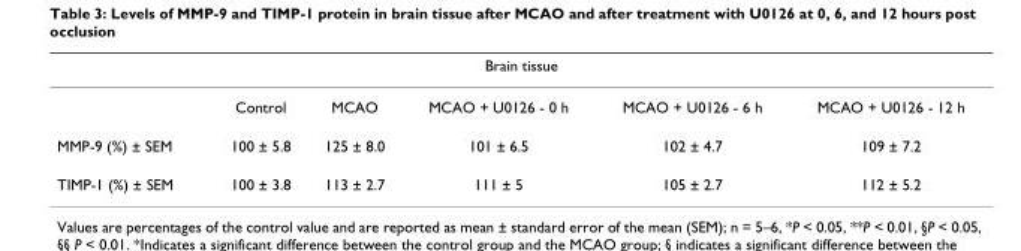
<table><thead><tr><td colspan="6">Brain tissue</td></tr><tr><td></td><td>Control</td><td>MCAO</td><td>MCAO + U0126 - 0 h</td><td>MCAO + U0126 - 6 h</td><td>MCAO + U0126 - 12 h</td></tr></thead><tbody><tr><td>MMP-9 (%) ± SEM</td><td>100 ± 5.8</td><td>125 ± 8.0</td><td>101 ± 6.5</td><td>102 ± 4.7</td><td>109 ± 7.2</td></tr><tr><td>TIMP-1 (%) ± SEM</td><td>100 ± 3.8</td><td>113 ± 2.7</td><td>111 ± 5</td><td>105 ± 2.7</td><td>112 ± 5.2</td></tr></tbody></table>